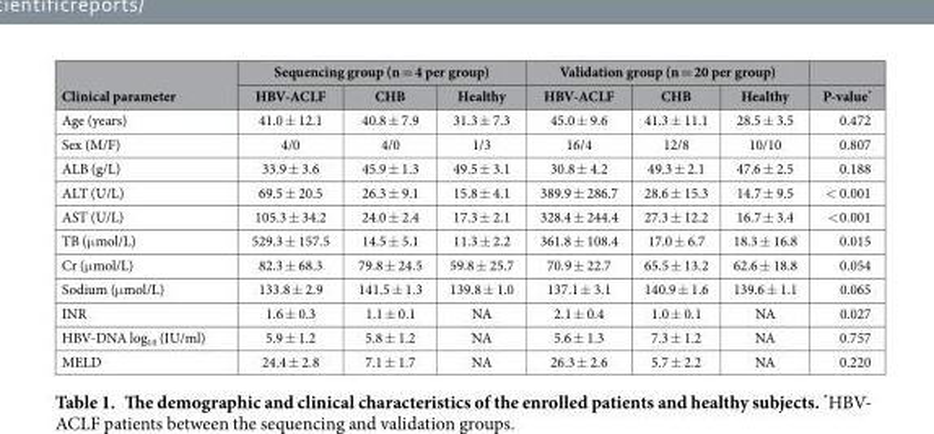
<table><thead><tr><td rowspan="2">Clinical parameter</td><td colspan="3">Sequencing group (n = 4 per group)</td><td colspan="3">Validation group (n = 20 per group)</td><td rowspan="2">P-value*</td></tr><tr><td>HBV-ACLF</td><td>CHB</td><td>Healthy</td><td>HBV-ACLF</td><td>CHB</td><td>Healthy</td></tr></thead><tbody><tr><td>Age (years)</td><td>41.0 ± 12.1</td><td>40.8 ± 7.9</td><td>31.3 ± 7.3</td><td>45.0 ± 9.6</td><td>41.3 ± 11.1</td><td>28.5 ± 3.5</td><td>0.472</td></tr><tr><td>Sex (M/F)</td><td>4/0</td><td>4/0</td><td>1/3</td><td>16/4</td><td>12/8</td><td>10/10</td><td>0.807</td></tr><tr><td>ALB (g/L)</td><td>33.9 ± 3.6</td><td>45.9 ± 1.3</td><td>49.5 ± 3.1</td><td>30.8 ± 4.2</td><td>49.3 ± 2.1</td><td>47.6 ± 2.5</td><td>0.188</td></tr><tr><td>ALT (U/L)</td><td>69.5 ± 20.5</td><td>26.3 ± 9.1</td><td>15.8 ± 4.1</td><td>389.9 ± 286.7</td><td>28.6 ± 15.3</td><td>14.7 ± 9.5</td><td>&lt; 0.001</td></tr><tr><td>AST (U/L)</td><td>105.3 ± 34.2</td><td>24.0 ± 2.4</td><td>17.3 ± 2.1</td><td>328.4 ± 244.4</td><td>27.3 ± 12.2</td><td>16.7 ± 3.4</td><td>&lt; 0.001</td></tr><tr><td>TB (μ mol/L)</td><td>529.3 ± 157.5</td><td>14.5 ± 5.1</td><td>11.3 ± 2.2</td><td>361.8 ± 108.4</td><td>17.0 ± 6.7</td><td>18.3 ± 16.8</td><td>0.015</td></tr><tr><td>Cr (μ mol/L)</td><td>82.3 ± 68.3</td><td>79.8 ± 24.5</td><td>59.8 ± 25.7</td><td>70.9 ± 22.7</td><td>65.5 ± 13.2</td><td>62.6 ± 18.8</td><td>0.054</td></tr><tr><td>Sodium (μ mol/L)</td><td>133.8 ± 2.9</td><td>141.5 ± 1.3</td><td>139.8 ± 1.0</td><td>137.1 ± 3.1</td><td>140.9 ± 1.6</td><td>139.6 ± 1.1</td><td>0.065</td></tr><tr><td>INR</td><td>1.6 ± 0.3</td><td>1.1 ± 0.1</td><td>NA</td><td>2.1 ± 0.4</td><td>1.0 ± 0.1</td><td>NA</td><td>0.027</td></tr><tr><td>HBV-DNA log<sub>10</sub> (IU/ml)</td><td>5.9 ± 1.2</td><td>5.8 ± 1.2</td><td>NA</td><td>5.6 ± 1.3</td><td>7.3 ± 1.2</td><td>NA</td><td>0.757</td></tr><tr><td>MELD</td><td>24.4 ± 2.8</td><td>7.1 ± 1.7</td><td>NA</td><td>26.3 ± 2.6</td><td>5.7 ± 2.2</td><td>NA</td><td>0.220</td></tr></tbody></table>